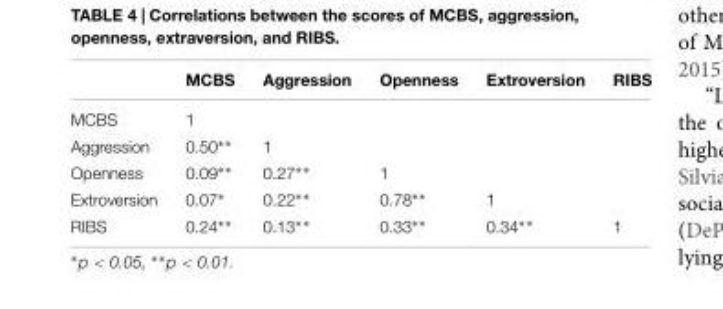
<table><thead><tr><td></td><td>MCBS</td><td>Aggression</td><td>Openness</td><td>Extroversion</td><td>RIBS</td></tr></thead><tbody><tr><td>MCBS</td><td>1</td><td></td><td></td><td></td><td></td></tr><tr><td>Aggression</td><td>0.50∗∗</td><td>1</td><td></td><td></td><td></td></tr><tr><td>Openness</td><td>0.09∗∗</td><td>0.27∗∗</td><td>1</td><td></td><td></td></tr><tr><td>Extroversion</td><td>0.07∗</td><td>0.22∗∗</td><td>0.78∗∗</td><td>1</td><td></td></tr><tr><td>RIBS</td><td>0.24∗∗</td><td>0.13∗∗</td><td>0.33∗∗</td><td>0.34∗∗</td><td>1</td></tr></tbody></table>